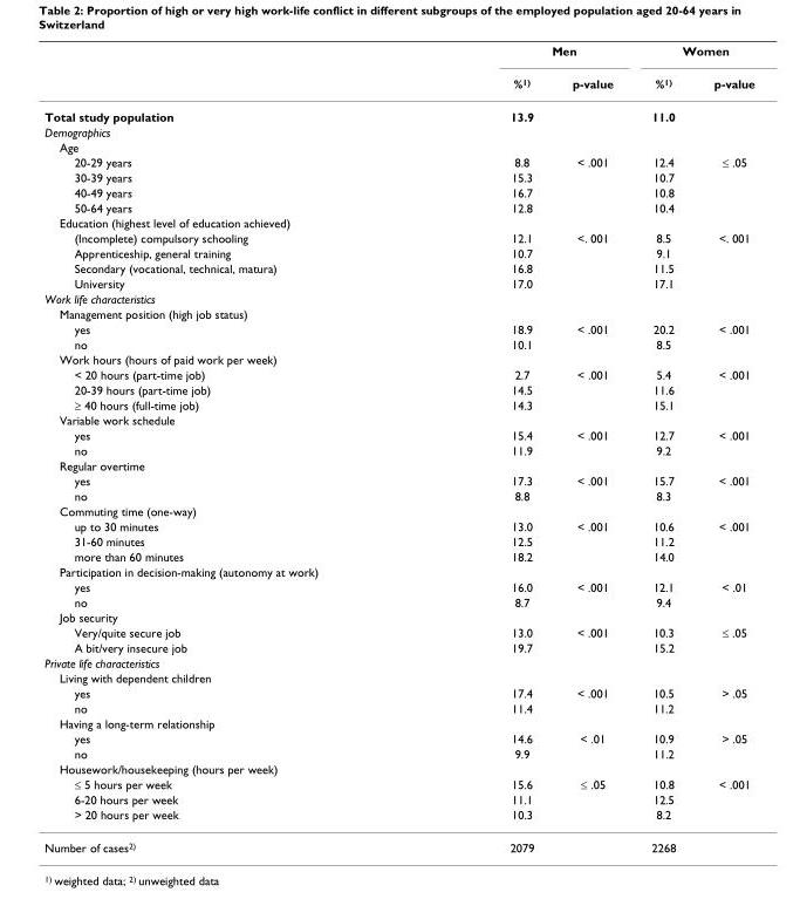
<table><thead><tr><td rowspan="2"></td><td colspan="2">Men</td><td colspan="2">Women</td></tr><tr><td>%<sup>1)</sup></td><td>p-value</td><td>%<sup>1)</sup></td><td>p-value</td></tr></thead><tbody><tr><td>Total study population</td><td>13.9</td><td></td><td>11.0</td><td></td></tr><tr><td colspan="5">Demographics</td></tr><tr><td colspan="5">Age</td></tr><tr><td>20-29 years</td><td>8.8</td><td>&lt; .001</td><td>12.4</td><td>≤ .05</td></tr><tr><td>30-39 years</td><td>15.3</td><td></td><td>10.7</td><td></td></tr><tr><td>40-49 years</td><td>16.7</td><td></td><td>10.8</td><td></td></tr><tr><td>50-64 years</td><td>12.8</td><td></td><td>10.4</td><td></td></tr><tr><td colspan="5">Education (highest level of education achieved)</td></tr><tr><td>(Incomplete) compulsory schooling</td><td>12.1</td><td>&lt;. 001</td><td>8.5</td><td>&lt;. 001</td></tr><tr><td>Apprenticeship, general training</td><td>10.7</td><td></td><td>9.1</td><td></td></tr><tr><td>Secondary (vocational, technical, matura)</td><td>16.8</td><td></td><td>11.5</td><td></td></tr><tr><td>University</td><td>17.0</td><td></td><td>17.1</td><td></td></tr><tr><td colspan="5">Work life characteristics</td></tr><tr><td colspan="5">Management position (high job status)</td></tr><tr><td>yes</td><td>18.9</td><td>&lt; .001</td><td>20.2</td><td>&lt; .001</td></tr><tr><td>no</td><td>10.1</td><td></td><td>8.5</td><td></td></tr><tr><td colspan="5">Work hours (hours of paid work per week)</td></tr><tr><td>&lt; 20 hours (part-time job)</td><td>2.7</td><td>&lt; .001</td><td>5.4</td><td>&lt; .001</td></tr><tr><td>20-39 hours (part-time job)</td><td>14.5</td><td></td><td>11.6</td><td></td></tr><tr><td>≥ 40 hours (full-time job)</td><td>14.3</td><td></td><td>15.1</td><td></td></tr><tr><td colspan="5">Variable work schedule</td></tr><tr><td>yes</td><td>15.4</td><td>&lt; .001</td><td>12.7</td><td>&lt; .001</td></tr><tr><td>no</td><td>11.9</td><td></td><td>9.2</td><td></td></tr><tr><td colspan="5">Regular overtime</td></tr><tr><td>yes</td><td>17.3</td><td>&lt; .001</td><td>15.7</td><td>&lt; .001</td></tr><tr><td>no</td><td>8.8</td><td></td><td>8.3</td><td></td></tr><tr><td colspan="5">Commuting time (one-way)</td></tr><tr><td>up to 30 minutes</td><td>13.0</td><td>&lt; .001</td><td>10.6</td><td>&lt; .001</td></tr><tr><td>31-60 minutes</td><td>12.5</td><td></td><td>11.2</td><td></td></tr><tr><td>more than 60 minutes</td><td>18.2</td><td></td><td>14.0</td><td></td></tr><tr><td colspan="5">Participation in decision-making (autonomy at work)</td></tr><tr><td>yes</td><td>16.0</td><td>&lt; .001</td><td>12.1</td><td>&lt; .01</td></tr><tr><td>no</td><td>8.7</td><td></td><td>9.4</td><td></td></tr><tr><td colspan="5">Job security</td></tr><tr><td>Very/quite secure job</td><td>13.0</td><td>&lt; .001</td><td>10.3</td><td>≤ .05</td></tr><tr><td>A bit/very insecure job</td><td>19.7</td><td></td><td>15.2</td><td></td></tr><tr><td colspan="5">Private life characteristics</td></tr><tr><td colspan="5">Living with dependent children</td></tr><tr><td>yes</td><td>17.4</td><td>&lt; .001</td><td>10.5</td><td>&gt; .05</td></tr><tr><td>no</td><td>11.4</td><td></td><td>11.2</td><td></td></tr><tr><td colspan="5">Having a long-term relationship</td></tr><tr><td>yes</td><td>14.6</td><td>&lt; .01</td><td>10.9</td><td>&gt; .05</td></tr><tr><td>no</td><td>9.9</td><td></td><td>11.2</td><td></td></tr><tr><td colspan="5">Housework/housekeeping (hours per week)</td></tr><tr><td>≤ 5 hours per week</td><td>15.6</td><td>≤ .05</td><td>10.8</td><td>&lt; .001</td></tr><tr><td>6-20 hours per week</td><td>11.1</td><td></td><td>12.5</td><td></td></tr><tr><td>&gt; 20 hours per week</td><td>10.3</td><td></td><td>8.2</td><td></td></tr><tr><td>Number of cases<sup>2)</sup></td><td>2079</td><td></td><td>2268</td><td></td></tr></tbody></table>